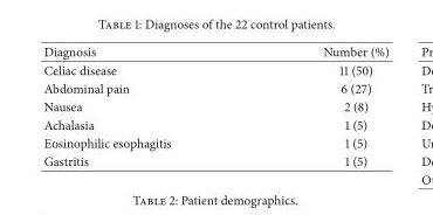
<table><thead><tr><td>Diagnosis</td><td>Number (%)</td></tr></thead><tbody><tr><td>Celiac disease</td><td>11 (50)</td></tr><tr><td>Abdominal pain</td><td>6 (27)</td></tr><tr><td>Nausea</td><td>2 (8)</td></tr><tr><td>Achalasia</td><td>1 (5)</td></tr><tr><td>Eosinophilic esophagitis</td><td>1 (5)</td></tr><tr><td>Gastritis</td><td>1 (5)</td></tr></tbody></table>